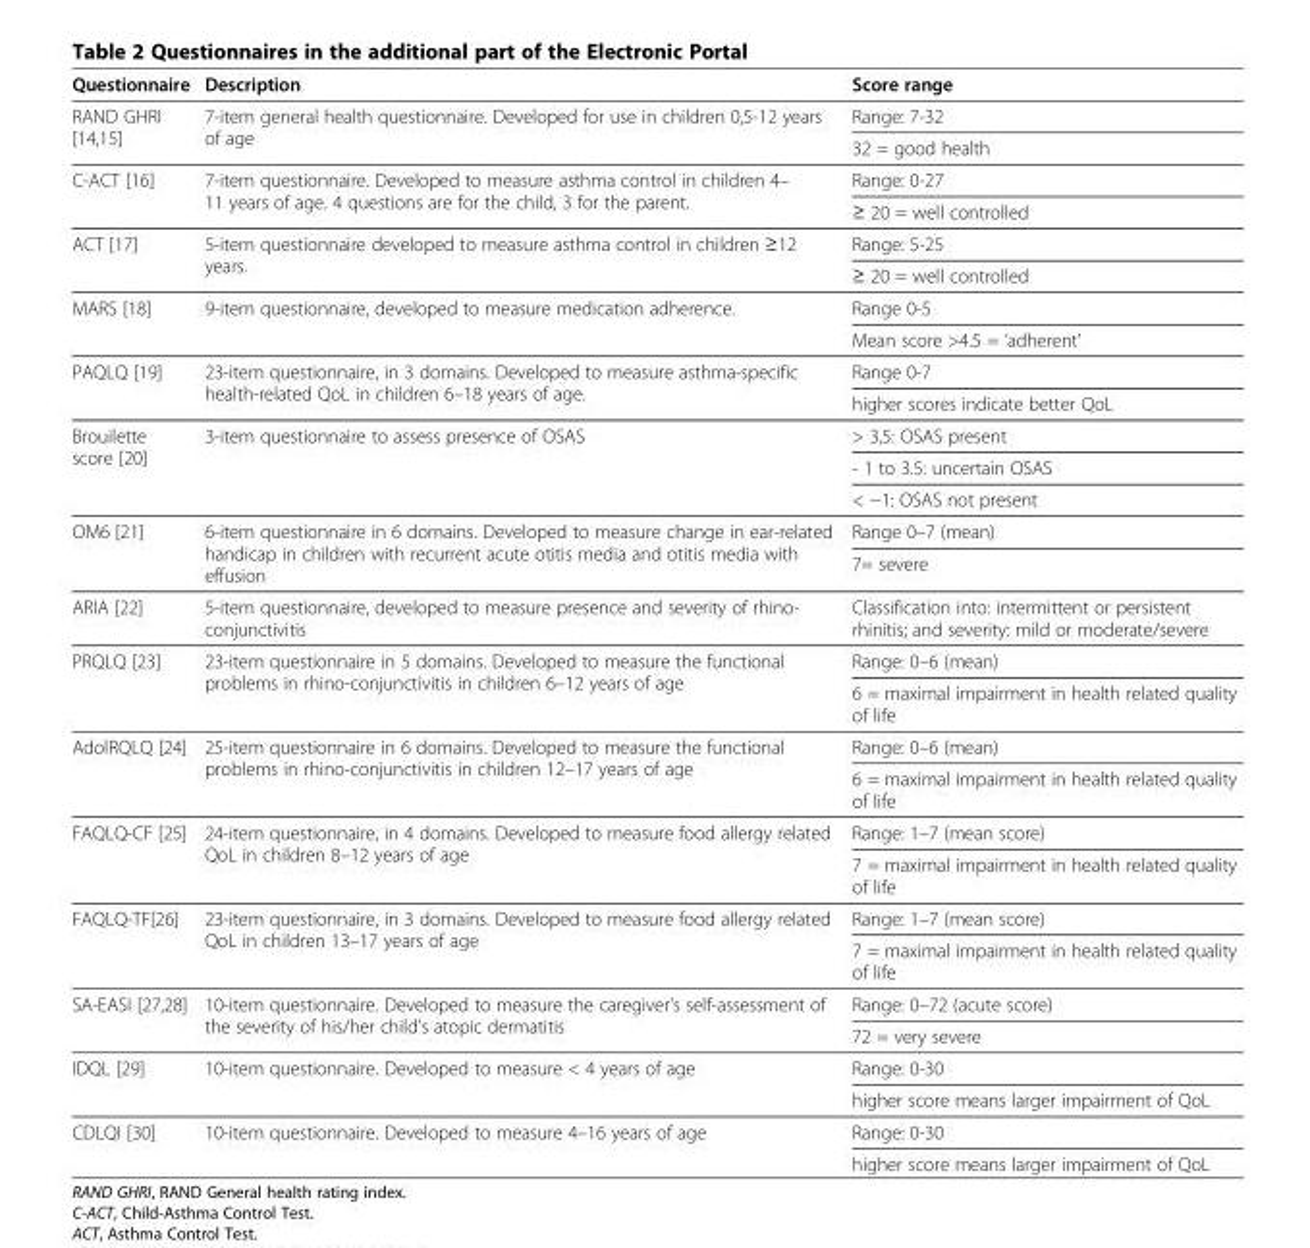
<table><thead><tr><td>Questionnaire</td><td>Description</td><td>Score range</td></tr></thead><tbody><tr><td rowspan="2">RAND GHRI [14,15]</td><td rowspan="2">7-item general health questionnaire. Developed for use in children 0,5-12 years of age</td><td>Range: 7-32</td></tr><tr><td>32 = good health</td></tr><tr><td rowspan="2">C-ACT [16]</td><td rowspan="2">7-item questionnaire. Developed to measure asthma control in children 4– 11 years of age. 4 questions are for the child, 3 for the parent.</td><td>Range: 0-27</td></tr><tr><td>≥ 20 = well controlled</td></tr><tr><td rowspan="2">ACT [17]</td><td rowspan="2">5-item questionnaire developed to measure asthma control in children ≥12 years.</td><td>Range: 5-25</td></tr><tr><td>≥ 20 = well controlled</td></tr><tr><td rowspan="2">MARS [18]</td><td rowspan="2">9-item questionnaire, developed to measure medication adherence.</td><td>Range 0-5</td></tr><tr><td>Mean score &gt;4.5 = ‘adherent’</td></tr><tr><td rowspan="2">PAQLQ [19]</td><td rowspan="2">23-item questionnaire, in 3 domains. Developed to measure asthma-specific health-related QoL in children 6–18 years of age.</td><td>Range 0-7</td></tr><tr><td>higher scores indicate better QoL</td></tr><tr><td rowspan="3">Brouilette score [20]</td><td rowspan="3">3-item questionnaire to assess presence of OSAS</td><td>&gt; 3,5: OSAS present</td></tr><tr><td>- 1 to 3.5: uncertain OSAS</td></tr><tr><td>&lt; −1: OSAS not present</td></tr><tr><td rowspan="2">OM6 [21]</td><td rowspan="2">6-item questionnaire in 6 domains. Developed to measure change in ear-related handicap in children with recurrent acute otitis media and otitis media with effusion</td><td>Range 0–7 (mean)</td></tr><tr><td>7= severe</td></tr><tr><td>ARIA [22]</td><td>5-item questionnaire, developed to measure presence and severity of rhino- conjunctivitis</td><td>Classification into: intermittent or persistent rhinitis; and severity: mild or moderate/severe</td></tr><tr><td rowspan="2">PRQLQ [23]</td><td rowspan="2">23-item questionnaire in 5 domains. Developed to measure the functional problems in rhino-conjunctivitis in children 6–12 years of age</td><td>Range: 0–6 (mean)</td></tr><tr><td>6 = maximal impairment in health related quality of life</td></tr><tr><td rowspan="2">AdolRQLQ [24]</td><td rowspan="2">25-item questionnaire in 6 domains. Developed to measure the functional problems in rhino-conjunctivitis in children 12–17 years of age</td><td>Range: 0–6 (mean)</td></tr><tr><td>6 = maximal impairment in health related quality of life</td></tr><tr><td rowspan="2">FAQLQ-CF [25]</td><td rowspan="2">24-item questionnaire, in 4 domains. Developed to measure food allergy related QoL in children 8–12 years of age</td><td>Range: 1–7 (mean score)</td></tr><tr><td>7 = maximal impairment in health related quality of life</td></tr><tr><td rowspan="2">FAQLQ-TF[26]</td><td rowspan="2">23-item questionnaire, in 3 domains. Developed to measure food allergy related QoL in children 13–17 years of age</td><td>Range: 1–7 (mean score)</td></tr><tr><td>7 = maximal impairment in health related quality of life</td></tr><tr><td rowspan="2">SA-EASI [27,28]</td><td rowspan="2">10-item questionnaire. Developed to measure the caregiver&#x27;s self-assessment of the severity of his/her child&#x27;s atopic dermatitis</td><td>Range: 0–72 (acute score)</td></tr><tr><td>72 = very severe</td></tr><tr><td rowspan="2">IDQL [29]</td><td rowspan="2">10-item questionnaire. Developed to measure &lt; 4 years of age</td><td>Range: 0-30</td></tr><tr><td>higher score means larger impairment of QoL</td></tr><tr><td rowspan="2">CDLQI [30]</td><td rowspan="2">10-item questionnaire. Developed to measure 4–16 years of age</td><td>Range: 0-30</td></tr><tr><td>higher score means larger impairment of QoL</td></tr></tbody></table>